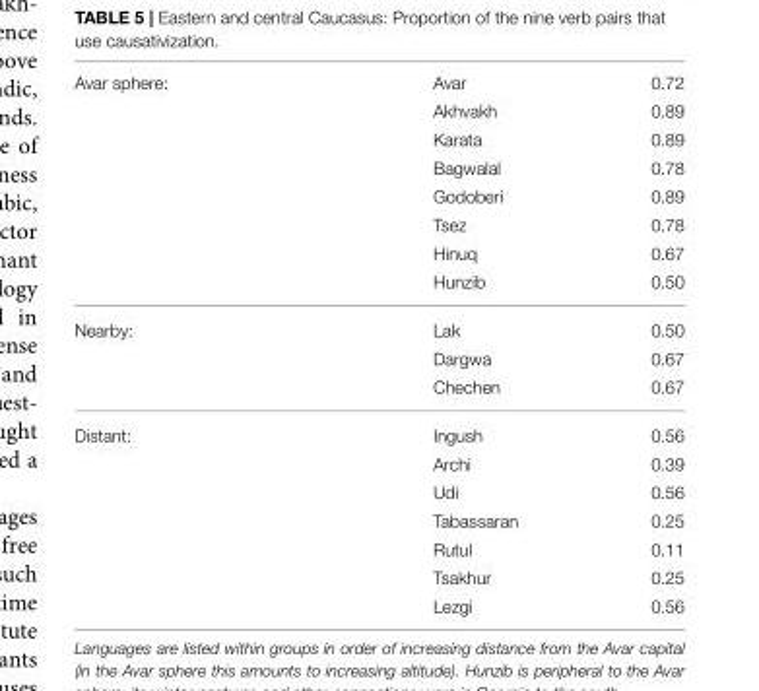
<table><tbody><tr><td rowspan="8">Avar sphere:</td><td>Avar</td><td>0.72</td></tr><tr><td>Akhvakh</td><td>0.89</td></tr><tr><td>Karata</td><td>0.89</td></tr><tr><td>Bagwalal</td><td>0.78</td></tr><tr><td>Godoberi</td><td>0.89</td></tr><tr><td>Tsez</td><td>0.78</td></tr><tr><td>Hinuq</td><td>0.67</td></tr><tr><td>Hunzib</td><td>0.50</td></tr><tr><td rowspan="3">Nearby:</td><td>Lak</td><td>0.50</td></tr><tr><td>Dargwa</td><td>0.67</td></tr><tr><td>Chechen</td><td>0.67</td></tr><tr><td rowspan="7">Distant:</td><td>Ingush</td><td>0.56</td></tr><tr><td>Archi</td><td>0.39</td></tr><tr><td>Udi</td><td>0.56</td></tr><tr><td>Tabassaran</td><td>0.25</td></tr><tr><td>Rutul</td><td>0.11</td></tr><tr><td>Tsakhur</td><td>0.25</td></tr><tr><td>Lezgi</td><td>0.56</td></tr></tbody></table>